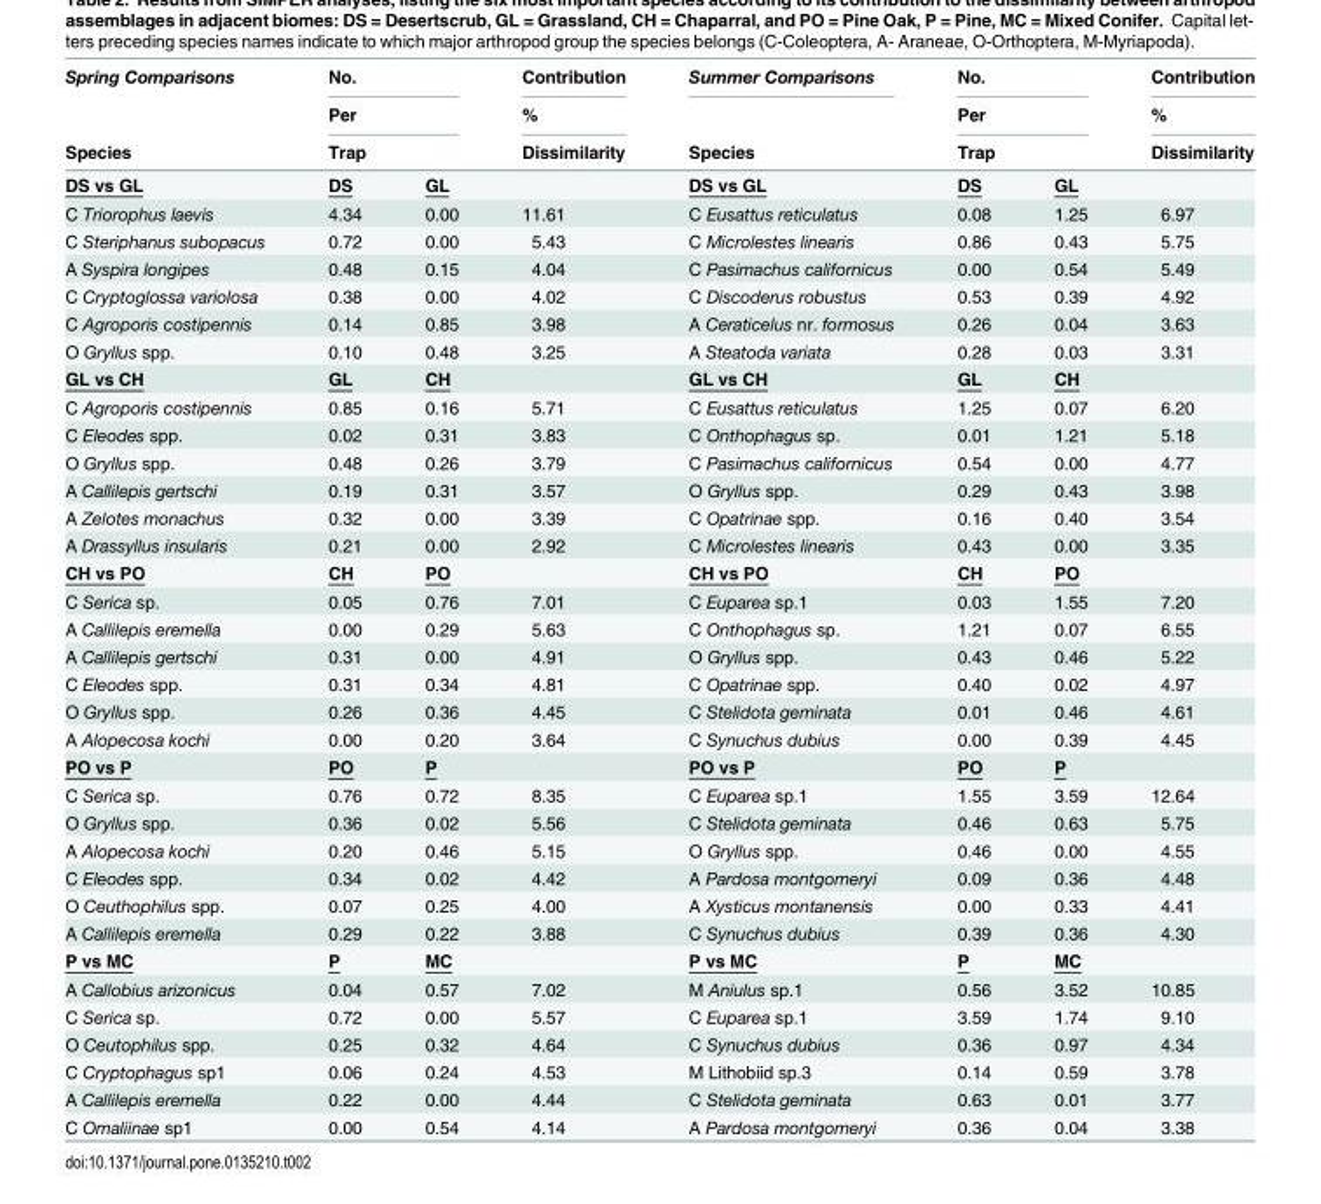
<table><thead><tr><td rowspan="4">Spring Comparisons Species DS vs GL</td><td rowspan="3" colspan="2">No. Per Trap</td><td rowspan="4">Contribution % Dissimilarity</td><td rowspan="4">Summer Comparisons Species DS vs GL</td><td rowspan="3" colspan="2">No. Per Trap</td><td rowspan="4">Contribution % Dissimilarity</td></tr><tr></tr><tr></tr><tr><td>DS</td><td>GL</td><td>DS</td><td>GL</td></tr></thead><tbody><tr><td>C Triorophus laevis</td><td>4.34</td><td>0.00</td><td>11.61</td><td>C Eusattus reticulatus</td><td>0.08</td><td>1.25</td><td>6.97</td></tr><tr><td>C Steriphanus subopacus</td><td>0.72</td><td>0.00</td><td>5.43</td><td>C Microlestes linearis</td><td>0.86</td><td>0.43</td><td>5.75</td></tr><tr><td>A Syspira longipes</td><td>0.48</td><td>0.15</td><td>4.04</td><td>C Pasimachus californicus</td><td>0.00</td><td>0.54</td><td>5.49</td></tr><tr><td>C Cryptoglossa variolosa</td><td>0.38</td><td>0.00</td><td>4.02</td><td>C Discoderus robustus</td><td>0.53</td><td>0.39</td><td>4.92</td></tr><tr><td>C Agroporis costipennis</td><td>0.14</td><td>0.85</td><td>3.98</td><td>A Ceraticelus nr. formosus</td><td>0.26</td><td>0.04</td><td>3.63</td></tr><tr><td>O Gryllus spp.</td><td>0.10</td><td>0.48</td><td>3.25</td><td>A Steatoda variata</td><td>0.28</td><td>0.03</td><td>3.31</td></tr><tr><td>GL vs CH</td><td>GL</td><td>CH</td><td></td><td>GL vs CH</td><td>GL</td><td>CH</td><td></td></tr><tr><td>C Agroporis costipennis</td><td>0.85</td><td>0.16</td><td>5.71</td><td>C Eusattus reticulatus</td><td>1.25</td><td>0.07</td><td>6.20</td></tr><tr><td>C Eleodes spp.</td><td>0.02</td><td>0.31</td><td>3.83</td><td>C Onthophagus sp.</td><td>0.01</td><td>1.21</td><td>5.18</td></tr><tr><td>O Gryllus spp.</td><td>0.48</td><td>0.26</td><td>3.79</td><td>C Pasimachus californicus</td><td>0.54</td><td>0.00</td><td>4.77</td></tr><tr><td>A Callilepis gertschi</td><td>0.19</td><td>0.31</td><td>3.57</td><td>O Gryllus spp.</td><td>0.29</td><td>0.43</td><td>3.98</td></tr><tr><td>A Zelotes monachus</td><td>0.32</td><td>0.00</td><td>3.39</td><td>C Opatrinae spp.</td><td>0.16</td><td>0.40</td><td>3.54</td></tr><tr><td>A Drassyllus insularis</td><td>0.21</td><td>0.00</td><td>2.92</td><td>C Microlestes linearis</td><td>0.43</td><td>0.00</td><td>3.35</td></tr><tr><td>CH vs PO</td><td>CH</td><td>PO</td><td></td><td>CH vs PO</td><td>CH</td><td>PO</td><td></td></tr><tr><td>C Serica sp.</td><td>0.05</td><td>0.76</td><td>7.01</td><td>C Euparea sp.1</td><td>0.03</td><td>1.55</td><td>7.20</td></tr><tr><td>A Callilepis eremella</td><td>0.00</td><td>0.29</td><td>5.63</td><td>C Onthophagus sp.</td><td>1.21</td><td>0.07</td><td>6.55</td></tr><tr><td>A Callilepis gertschi</td><td>0.31</td><td>0.00</td><td>4.91</td><td>O Gryllus spp.</td><td>0.43</td><td>0.46</td><td>5.22</td></tr><tr><td>C Eleodes spp.</td><td>0.31</td><td>0.34</td><td>4.81</td><td>C Opatrinae spp.</td><td>0.40</td><td>0.02</td><td>4.97</td></tr><tr><td>O Gryllus spp.</td><td>0.26</td><td>0.36</td><td>4.45</td><td>C Stelidota geminata</td><td>0.01</td><td>0.46</td><td>4.61</td></tr><tr><td>A Alopecosa kochi</td><td>0.00</td><td>0.20</td><td>3.64</td><td>C Synuchus dubius</td><td>0.00</td><td>0.39</td><td>4.45</td></tr><tr><td>PO vs P</td><td>PO</td><td>P</td><td></td><td>PO vs P</td><td>PO</td><td>P</td><td></td></tr><tr><td>C Serica sp.</td><td>0.76</td><td>0.72</td><td>8.35</td><td>C Euparea sp.1</td><td>1.55</td><td>3.59</td><td>12.64</td></tr><tr><td>O Gryllus spp.</td><td>0.36</td><td>0.02</td><td>5.56</td><td>C Stelidota geminata</td><td>0.46</td><td>0.63</td><td>5.75</td></tr><tr><td>A Alopecosa kochi</td><td>0.20</td><td>0.46</td><td>5.15</td><td>O Gryllus spp.</td><td>0.46</td><td>0.00</td><td>4.55</td></tr><tr><td>C Eleodes spp.</td><td>0.34</td><td>0.02</td><td>4.42</td><td>A Pardosa montgomeryi</td><td>0.09</td><td>0.36</td><td>4.48</td></tr><tr><td>O Ceuthophilus spp.</td><td>0.07</td><td>0.25</td><td>4.00</td><td>A Xysticus montanensis</td><td>0.00</td><td>0.33</td><td>4.41</td></tr><tr><td>A Callilepis eremella</td><td>0.29</td><td>0.22</td><td>3.88</td><td>C Synuchus dubius</td><td>0.39</td><td>0.36</td><td>4.30</td></tr><tr><td>P vs MC</td><td>P</td><td>MC</td><td></td><td>P vs MC</td><td>P</td><td>MC</td><td></td></tr><tr><td>A Callobius arizonicus</td><td>0.04</td><td>0.57</td><td>7.02</td><td>M Aniulus sp.1</td><td>0.56</td><td>3.52</td><td>10.85</td></tr><tr><td>C Serica sp.</td><td>0.72</td><td>0.00</td><td>5.57</td><td>C Euparea sp.1</td><td>3.59</td><td>1.74</td><td>9.10</td></tr><tr><td>O Ceutophilus spp.</td><td>0.25</td><td>0.32</td><td>4.64</td><td>C Synuchus dubius</td><td>0.36</td><td>0.97</td><td>4.34</td></tr><tr><td>C Cryptophagus sp1</td><td>0.06</td><td>0.24</td><td>4.53</td><td>M Lithobiid sp.3</td><td>0.14</td><td>0.59</td><td>3.78</td></tr><tr><td>A Callilepis eremella</td><td>0.22</td><td>0.00</td><td>4.44</td><td>C Stelidota geminata</td><td>0.63</td><td>0.01</td><td>3.77</td></tr><tr><td>C Omaliinae sp1</td><td>0.00</td><td>0.54</td><td>4.14</td><td>A Pardosa montgomeryi</td><td>0.36</td><td>0.04</td><td>3.38</td></tr></tbody></table>